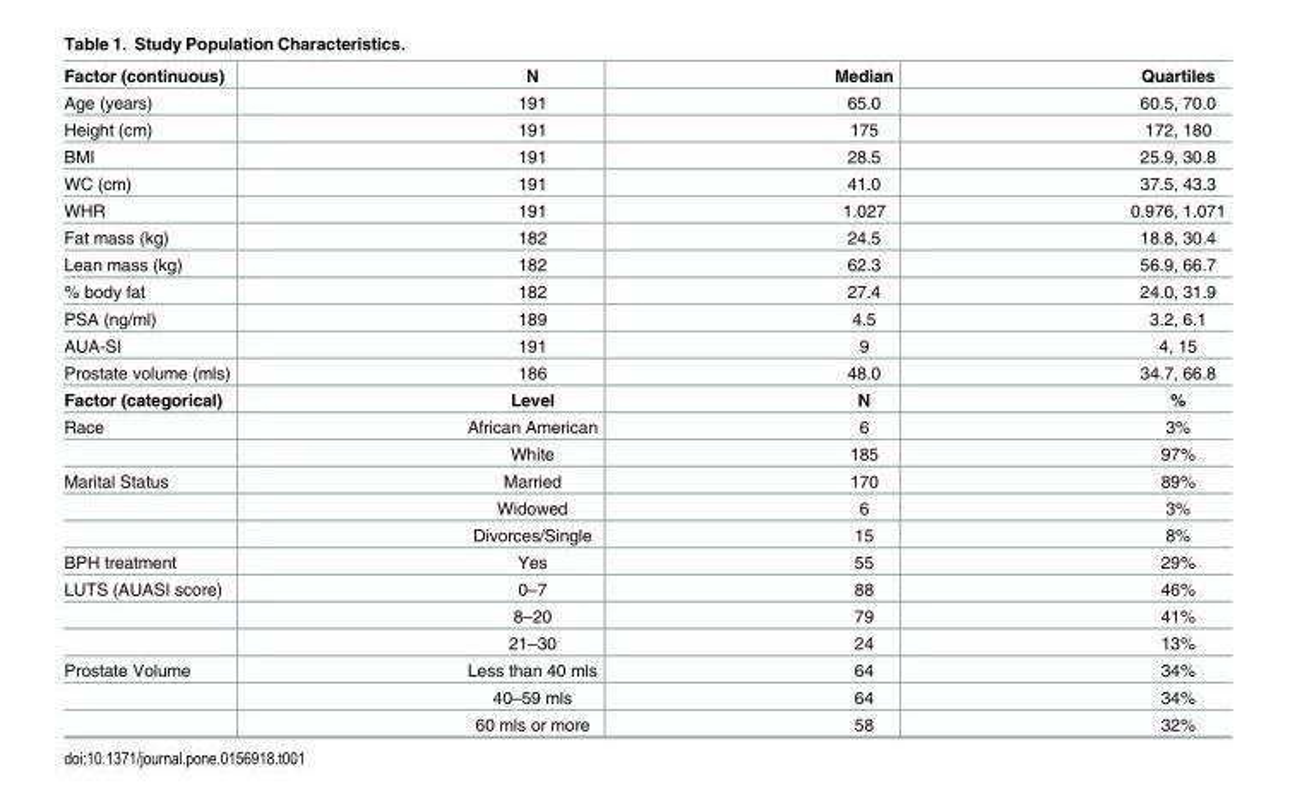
<table><tbody><tr><td>Factor (continuous)</td><td>N</td><td>Median</td><td>Quartiles</td></tr><tr><td>Age (years)</td><td>191</td><td>65.0</td><td>60.5, 70.0</td></tr><tr><td>Height (cm)</td><td>191</td><td>175</td><td>172, 180</td></tr><tr><td>BMI</td><td>191</td><td>28.5</td><td>25.9, 30.8</td></tr><tr><td>WC (cm)</td><td>191</td><td>41.0</td><td>37.5, 43.3</td></tr><tr><td>WHR</td><td>191</td><td>1.027</td><td>0.976, 1.071</td></tr><tr><td>Fat mass (kg)</td><td>182</td><td>24.5</td><td>18.8, 30.4</td></tr><tr><td>Lean mass (kg)</td><td>182</td><td>62.3</td><td>56.9, 66.7</td></tr><tr><td>% body fat</td><td>182</td><td>27.4</td><td>24.0, 31.9</td></tr><tr><td>PSA (ng/ml)</td><td>189</td><td>4.5</td><td>3.2, 6.1</td></tr><tr><td>AUA-SI</td><td>191</td><td>9</td><td>4, 15</td></tr><tr><td>Prostate volume (mls)</td><td>186</td><td>48.0</td><td>34.7, 66.8</td></tr><tr><td>Factor (categorical)</td><td>Level</td><td>N</td><td>%</td></tr><tr><td rowspan="2">Race</td><td>African American</td><td>6</td><td>3%</td></tr><tr><td>White</td><td>185</td><td>97%</td></tr><tr><td rowspan="3">Marital Status</td><td>Married</td><td>170</td><td>89%</td></tr><tr><td>Widowed</td><td>6</td><td>3%</td></tr><tr><td>Divorces/Single</td><td>15</td><td>8%</td></tr><tr><td>BPH treatment</td><td>Yes</td><td>55</td><td>29%</td></tr><tr><td rowspan="3">LUTS (AUASI score)</td><td>0–7</td><td>88</td><td>46%</td></tr><tr><td>8–20</td><td>79</td><td>41%</td></tr><tr><td>21–30</td><td>24</td><td>13%</td></tr><tr><td rowspan="3">Prostate Volume</td><td>Less than 40 mls</td><td>64</td><td>34%</td></tr><tr><td>40–59 mls</td><td>64</td><td>34%</td></tr><tr><td>60 mls or more</td><td>58</td><td>32%</td></tr></tbody></table>